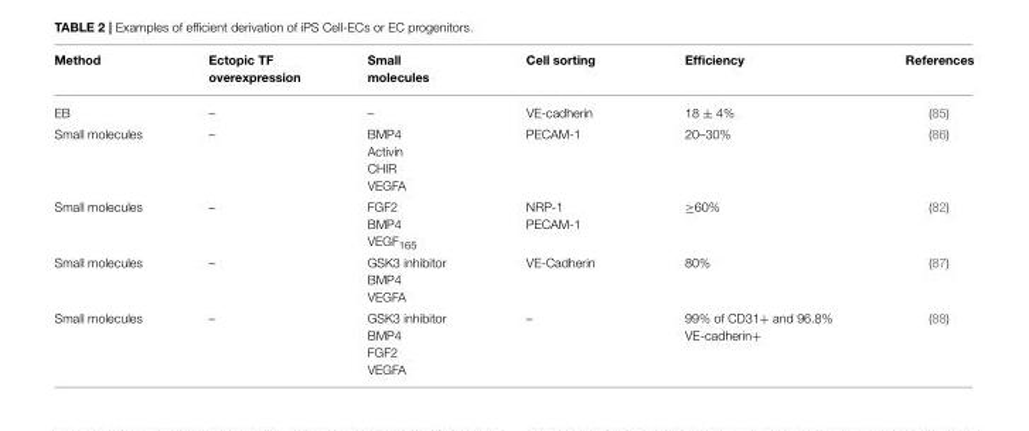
<table><thead><tr><td>Method</td><td>Ectopic TF overexpression</td><td>Small molecules</td><td>Cell sorting</td><td>Efficiency</td><td>References</td></tr></thead><tbody><tr><td>EB</td><td>–</td><td>–</td><td>VE-cadherin</td><td>18 ± 4%</td><td>(85)</td></tr><tr><td>Small molecules</td><td>–</td><td>BMP4 Activin CHIR VEGFA</td><td>PECAM-1</td><td>20–30%</td><td>(86)</td></tr><tr><td>Small molecules</td><td>–</td><td>FGF2 BMP4 VEGF<sub>165</sub></td><td>NRP-1 PECAM-1</td><td>≥60%</td><td>(82)</td></tr><tr><td>Small molecules</td><td>–</td><td>GSK3 inhibitor BMP4 VEGFA</td><td>VE-Cadherin</td><td>80%</td><td>(87)</td></tr><tr><td>Small molecules</td><td>–</td><td>GSK3 inhibitor BMP4 FGF2 VEGFA</td><td>–</td><td>99% of CD31+ and 96.8% VE-cadherin+</td><td>(88)</td></tr></tbody></table>